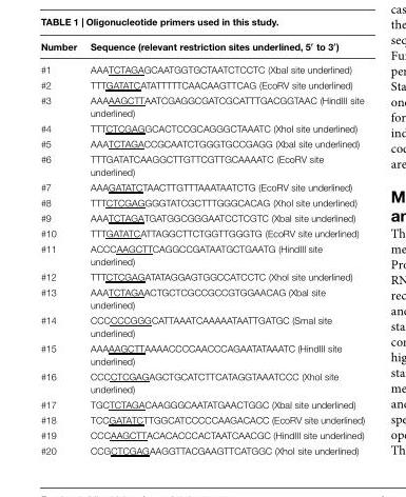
<table><thead><tr><td>Number</td><td>Sequence (relevant restriction sites underlined, 5′ to 3′)</td></tr></thead><tbody><tr><td>#1</td><td>AAATCTAGAGCAATGGTGCTAATCTCCTC (XbaI site underlined)</td></tr><tr><td>#2</td><td>TTTGATATCATATTTTTCAACAAGTTCAG (EcoRV site underlined)</td></tr><tr><td>#3</td><td>AAAAAGCTTAATCGAGGCGATCGCATTTGACGGTAAC (HindIII site underlined)</td></tr><tr><td>#4</td><td>TTTCTCGAGGCACTCCGCAGGGCTAAATC (XhoI site underlined)</td></tr><tr><td>#5</td><td>AAATCTAGACCGCAATCTGGGTGCCGAGG (XbaI site underlined)</td></tr><tr><td>#6</td><td>TTTGATATCAAGGCTTGTTCGTTGCAAAATC (EcoRV site underlined)</td></tr><tr><td>#7</td><td>AAAGATATCTAACTTGTTTAAATAATCTG (EcoRV site underlined)</td></tr><tr><td>#8</td><td>TTTCTCGAGGGGTATCGCTTTGGGCACAG (XhoI site underlined)</td></tr><tr><td>#9</td><td>AAATCTAGATGATGGCGGGAATCCTCGTC (XbaI site underlined)</td></tr><tr><td>#10</td><td>TTTGATATCATTAGGCTTCTGGTTGGGTG (EcoRV site underlined)</td></tr><tr><td>#11</td><td>ACCCAAGCTTCAGGCCGATAATGCTGAATG (HindIII site underlined)</td></tr><tr><td>#12</td><td>TTTCTCGAGATATAGGAGTGGCCATCCTC (XhoI site underlined)</td></tr><tr><td>#13</td><td>AAATCTAGAACTGCTCGCCGCCGTGGAACAG (XbaI site underlined)</td></tr><tr><td>#14</td><td>CCCCCCGGGCATTAAATCAAAAATAATTGATGC (SmaI site underlined)</td></tr><tr><td>#15</td><td>AAAAAGCTTAAAACCCCAACCCAGAATATAAATC (HindIII site underlined)</td></tr><tr><td>#16</td><td>CCCCTCGAGAGCTGCATCTTCATAGGTAAATCCC (XhoI site underlined)</td></tr><tr><td>#17</td><td>TGCTCTAGACAAGGGCAATATGAACTGGC (XbaI site underlined)</td></tr><tr><td>#18</td><td>TCCGATATCTTGGCATCCCCCAAGACACC (EcoRV site underlined)</td></tr><tr><td>#19</td><td>CCCAAGCTTACACACCCACTAATCAACGC (HindIII site underlined)</td></tr><tr><td>#20</td><td>CCGCTCGAGAAGGTTACGAAGTTCATGGC (XhoI site underlined)</td></tr></tbody></table>